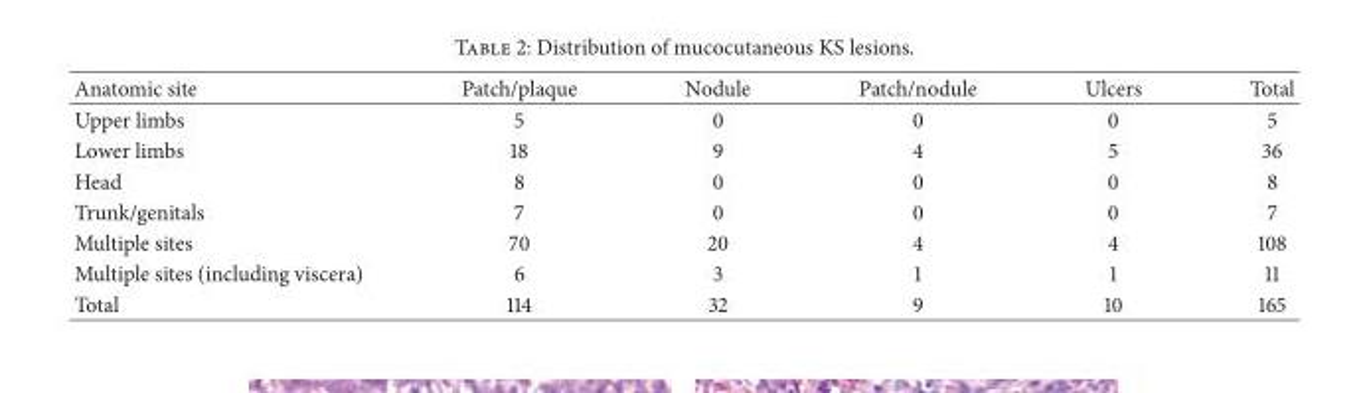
<table><thead><tr><td>Anatomic site</td><td>Patch/plaque</td><td>Nodule</td><td>Patch/nodule</td><td>Ulcers</td><td>Total</td></tr></thead><tbody><tr><td>Upper limbs</td><td>5</td><td>0</td><td>0</td><td>0</td><td>5</td></tr><tr><td>Lower limbs</td><td>18</td><td>9</td><td>4</td><td>5</td><td>36</td></tr><tr><td>Head</td><td>8</td><td>0</td><td>0</td><td>0</td><td>8</td></tr><tr><td>Trunk/genitals</td><td>7</td><td>0</td><td>0</td><td>0</td><td>7</td></tr><tr><td>Multiple sites</td><td>70</td><td>20</td><td>4</td><td>4</td><td>108</td></tr><tr><td>Multiple sites (including viscera)</td><td>6</td><td>3</td><td>1</td><td>1</td><td>11</td></tr><tr><td>Total</td><td>114</td><td>32</td><td>9</td><td>10</td><td>165</td></tr></tbody></table>